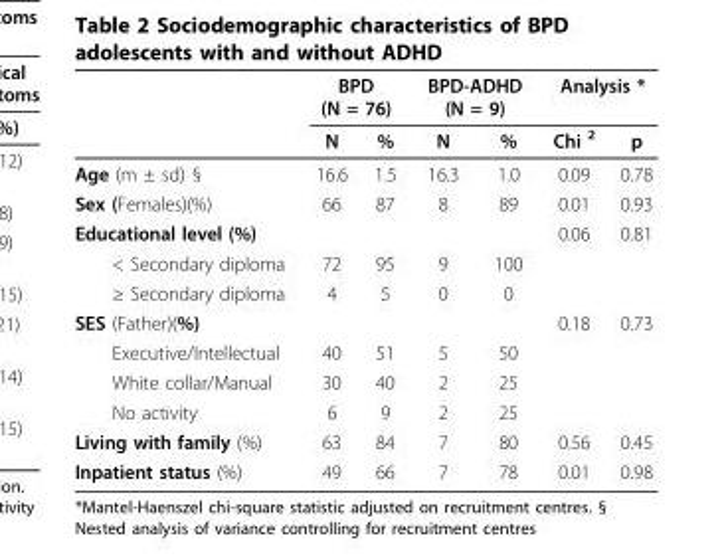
<table><thead><tr><td rowspan="2"></td><td colspan="2">BPD (N = 76)</td><td colspan="2">BPD-ADHD (N = 9)</td><td colspan="2">Analysis *</td></tr><tr><td>N</td><td>%</td><td>N</td><td>%</td><td>Chi <sup>2</sup></td><td>p</td></tr></thead><tbody><tr><td>Age (m ± sd) §</td><td>16.6</td><td>1.5</td><td>16.3</td><td>1.0</td><td>0.09</td><td>0.78</td></tr><tr><td>Sex (Females)(%)</td><td>66</td><td>87</td><td>8</td><td>89</td><td>0.01</td><td>0.93</td></tr><tr><td>Educational level (%)</td><td></td><td></td><td></td><td></td><td>0.06</td><td>0.81</td></tr><tr><td>&lt; Secondary diploma</td><td>72</td><td>95</td><td>9</td><td>100</td><td></td><td></td></tr><tr><td>≥ Secondary diploma</td><td>4</td><td>5</td><td>0</td><td>0</td><td></td><td></td></tr><tr><td>SES (Father)(%)</td><td></td><td></td><td></td><td></td><td>0.18</td><td>0.73</td></tr><tr><td>Executive/Intellectual</td><td>40</td><td>51</td><td>5</td><td>50</td><td></td><td></td></tr><tr><td>White collar/Manual</td><td>30</td><td>40</td><td>2</td><td>25</td><td></td><td></td></tr><tr><td>No activity</td><td>6</td><td>9</td><td>2</td><td>25</td><td></td><td></td></tr><tr><td>Living with family (%)</td><td>63</td><td>84</td><td>7</td><td>80</td><td>0.56</td><td>0.45</td></tr><tr><td>Inpatient status (%)</td><td>49</td><td>66</td><td>7</td><td>78</td><td>0.01</td><td>0.98</td></tr></tbody></table>